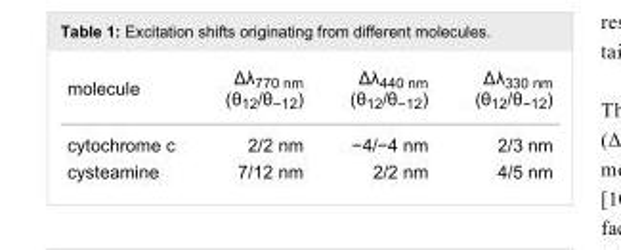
<table><tbody><tr><td>molecule</td><td>Δλ<sub>770 nm</sub> (θ<sub>12</sub>/θ<sub>−12</sub>)</td><td>Δλ<sub>440 nm</sub> (θ<sub>12</sub>/θ<sub>−12</sub>)</td><td>Δλ<sub>330 nm</sub> (θ<sub>12</sub>/θ<sub>−12</sub>)</td></tr><tr><td>cytochrome c</td><td>2/2 nm</td><td>−4/−4 nm</td><td>2/3 nm</td></tr><tr><td>cysteamine</td><td>7/12 nm</td><td>2/2 nm</td><td>4/5 nm</td></tr></tbody></table>